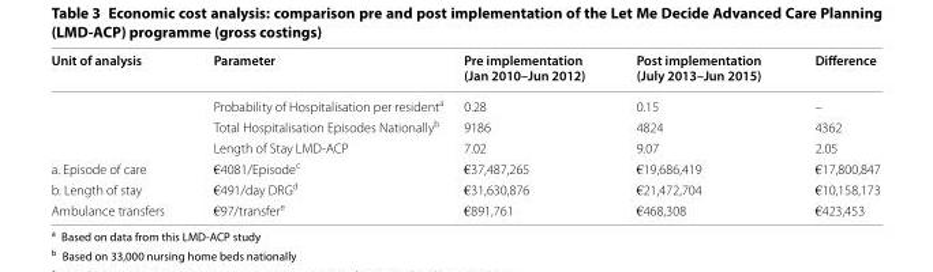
<table><thead><tr><td>Unit of analysis</td><td>Parameter</td><td>Pre implementation (Jan 2010–Jun 2012)</td><td>Post implementation (July 2013–Jun 2015)</td><td>Difference</td></tr></thead><tbody><tr><td></td><td>Probability of Hospitalisation per resident<sup>a</sup></td><td>0.28</td><td>0.15</td><td>–</td></tr><tr><td></td><td>Total Hospitalisation Episodes Nationally<sup>b</sup></td><td>9186</td><td>4824</td><td>4362</td></tr><tr><td></td><td>Length of Stay LMD-ACP</td><td>7.02</td><td>9.07</td><td>2.05</td></tr><tr><td>a. Episode of care</td><td>€4081/Episode<sup>c</sup></td><td>€37,487,265</td><td>€19,686,419</td><td>€17,800,847</td></tr><tr><td>b. Length of stay</td><td>€491/day DRG<sup>d</sup></td><td>€31,630,876</td><td>€21,472,704</td><td>€10,158,173</td></tr><tr><td>Ambulance transfers</td><td>€97/transfer<sup>e</sup></td><td>€891,761</td><td>€468,308</td><td>€423,453</td></tr></tbody></table>